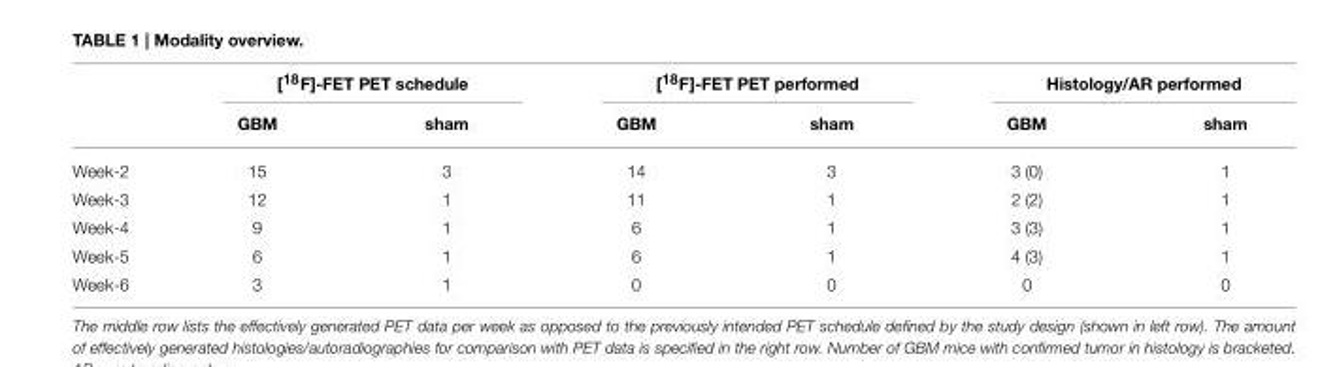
<table><thead><tr><td rowspan="2"></td><td colspan="2">[<sup>18</sup>F]-FET PET schedule</td><td colspan="2">[<sup>18</sup>F]-FET PET performed</td><td colspan="2">Histology/AR performed</td></tr><tr><td>GBM</td><td>sham</td><td>GBM</td><td>sham</td><td>GBM</td><td>sham</td></tr></thead><tbody><tr><td>Week-2</td><td>15</td><td>3</td><td>14</td><td>3</td><td>3 (0)</td><td>1</td></tr><tr><td>Week-3</td><td>12</td><td>1</td><td>11</td><td>1</td><td>2 (2)</td><td>1</td></tr><tr><td>Week-4</td><td>9</td><td>1</td><td>6</td><td>1</td><td>3 (3)</td><td>1</td></tr><tr><td>Week-5</td><td>6</td><td>1</td><td>6</td><td>1</td><td>4 (3)</td><td>1</td></tr><tr><td>Week-6</td><td>3</td><td>1</td><td>0</td><td>0</td><td>0</td><td>0</td></tr></tbody></table>